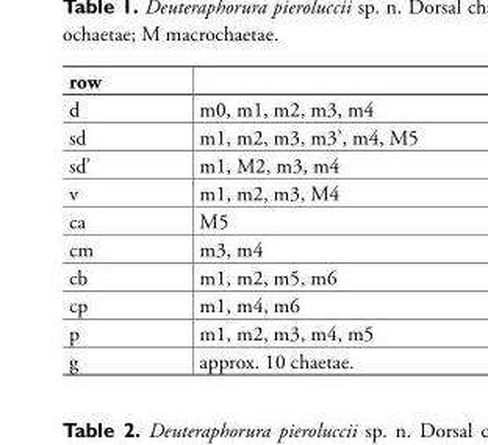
<table><thead><tr><td>row</td><td></td></tr></thead><tbody><tr><td>d</td><td>m0, m1, m2, m3, m4</td></tr><tr><td>sd</td><td>m1, m2, m3, m3’, m4, M5</td></tr><tr><td>sd’</td><td>m1, M2, m3, m4</td></tr><tr><td>v</td><td>m1, m2, m3, M4</td></tr><tr><td>ca</td><td>M5</td></tr><tr><td>cm</td><td>m3, m4</td></tr><tr><td>cb</td><td>m1, m2, m5, m6</td></tr><tr><td>cp</td><td>m1, m4, m6</td></tr><tr><td>p</td><td>m1, m2, m3, m4, m5</td></tr><tr><td>g</td><td>approx. 10 chaetae.</td></tr></tbody></table>